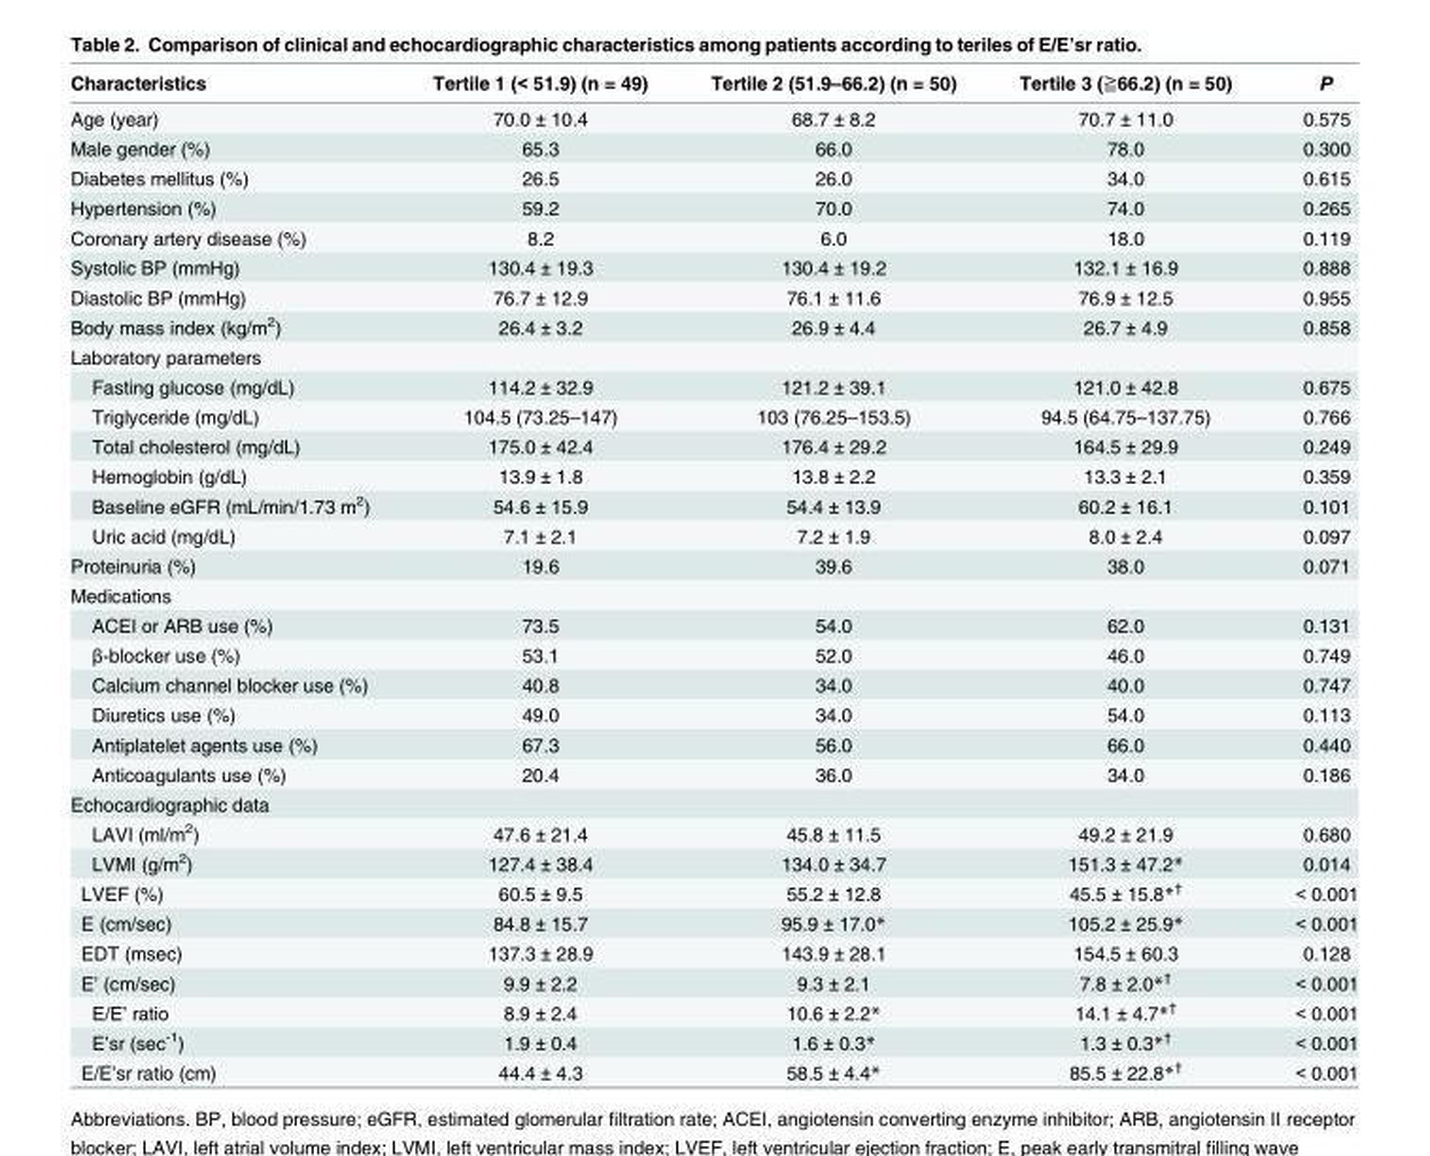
<table><thead><tr><td>Characteristics</td><td>Tertile 1 (&lt; 51.9) (n = 49)</td><td>Tertile 2 (51.9–66.2) (n = 50)</td><td>Tertile 3 (≧66.2) (n = 50)</td><td>P</td></tr></thead><tbody><tr><td>Age (year)</td><td>70.0 ± 10.4</td><td>68.7 ± 8.2</td><td>70.7 ± 11.0</td><td>0.575</td></tr><tr><td>Male gender (%)</td><td>65.3</td><td>66.0</td><td>78.0</td><td>0.300</td></tr><tr><td>Diabetes mellitus (%)</td><td>26.5</td><td>26.0</td><td>34.0</td><td>0.615</td></tr><tr><td>Hypertension (%)</td><td>59.2</td><td>70.0</td><td>74.0</td><td>0.265</td></tr><tr><td>Coronary artery disease (%)</td><td>8.2</td><td>6.0</td><td>18.0</td><td>0.119</td></tr><tr><td>Systolic BP (mmHg)</td><td>130.4 ± 19.3</td><td>130.4 ± 19.2</td><td>132.1 ± 16.9</td><td>0.888</td></tr><tr><td>Diastolic BP (mmHg)</td><td>76.7 ± 12.9</td><td>76.1 ± 11.6</td><td>76.9 ± 12.5</td><td>0.955</td></tr><tr><td>Body mass index (kg/m<sup>2</sup>)</td><td>26.4 ± 3.2</td><td>26.9 ± 4.4</td><td>26.7 ± 4.9</td><td>0.858</td></tr><tr><td colspan="5">Laboratory parameters</td></tr><tr><td>Fasting glucose (mg/dL)</td><td>114.2 ± 32.9</td><td>121.2 ± 39.1</td><td>121.0 ± 42.8</td><td>0.675</td></tr><tr><td>Triglyceride (mg/dL)</td><td>104.5 (73.25–147)</td><td>103 (76.25–153.5)</td><td>94.5 (64.75–137.75)</td><td>0.766</td></tr><tr><td>Total cholesterol (mg/dL)</td><td>175.0 ± 42.4</td><td>176.4 ± 29.2</td><td>164.5 ± 29.9</td><td>0.249</td></tr><tr><td>Hemoglobin (g/dL)</td><td>13.9 ± 1.8</td><td>13.8 ± 2.2</td><td>13.3 ± 2.1</td><td>0.359</td></tr><tr><td>Baseline eGFR (mL/min/1.73 m<sup>2</sup>)</td><td>54.6 ± 15.9</td><td>54.4 ± 13.9</td><td>60.2 ± 16.1</td><td>0.101</td></tr><tr><td>Uric acid (mg/dL)</td><td>7.1 ± 2.1</td><td>7.2 ± 1.9</td><td>8.0 ± 2.4</td><td>0.097</td></tr><tr><td>Proteinuria (%)</td><td>19.6</td><td>39.6</td><td>38.0</td><td>0.071</td></tr><tr><td colspan="5">Medications</td></tr><tr><td>ACEI or ARB use (%)</td><td>73.5</td><td>54.0</td><td>62.0</td><td>0.131</td></tr><tr><td>β-blocker use (%)</td><td>53.1</td><td>52.0</td><td>46.0</td><td>0.749</td></tr><tr><td>Calcium channel blocker use (%)</td><td>40.8</td><td>34.0</td><td>40.0</td><td>0.747</td></tr><tr><td>Diuretics use (%)</td><td>49.0</td><td>34.0</td><td>54.0</td><td>0.113</td></tr><tr><td>Antiplatelet agents use (%)</td><td>67.3</td><td>56.0</td><td>66.0</td><td>0.440</td></tr><tr><td>Anticoagulants use (%)</td><td>20.4</td><td>36.0</td><td>34.0</td><td>0.186</td></tr><tr><td colspan="5">Echocardiographic data</td></tr><tr><td>LAVI (ml/m<sup>2</sup>)</td><td>47.6 ± 21.4</td><td>45.8 ± 11.5</td><td>49.2 ± 21.9</td><td>0.680</td></tr><tr><td>LVMI (g/m<sup>2</sup>)</td><td>127.4 ± 38.4</td><td>134.0 ± 34.7</td><td>151.3 ± 47.2*</td><td>0.014</td></tr><tr><td>LVEF (%)</td><td>60.5 ± 9.5</td><td>55.2 ± 12.8</td><td>45.5 ± 15.8*<sup>†</sup></td><td>&lt; 0.001</td></tr><tr><td>E (cm/sec)</td><td>84.8 ± 15.7</td><td>95.9 ± 17.0*</td><td>105.2 ± 25.9*</td><td>&lt; 0.001</td></tr><tr><td>EDT (msec)</td><td>137.3 ± 28.9</td><td>143.9 ± 28.1</td><td>154.5 ± 60.3</td><td>0.128</td></tr><tr><td>E’ (cm/sec)</td><td>9.9 ± 2.2</td><td>9.3 ± 2.1</td><td>7.8 ± 2.0*<sup>†</sup></td><td>&lt; 0.001</td></tr><tr><td>E/E’ ratio</td><td>8.9 ± 2.4</td><td>10.6 ± 2.2*</td><td>14.1 ± 4.7*<sup>†</sup></td><td>&lt; 0.001</td></tr><tr><td>E’sr (sec<sup>-1</sup>)</td><td>1.9 ± 0.4</td><td>1.6 ± 0.3*</td><td>1.3 ± 0.3*<sup>†</sup></td><td>&lt; 0.001</td></tr><tr><td>E/E’sr ratio (cm)</td><td>44.4 ± 4.3</td><td>58.5 ± 4.4*</td><td>85.5 ± 22.8*<sup>†</sup></td><td>&lt; 0.001</td></tr></tbody></table>